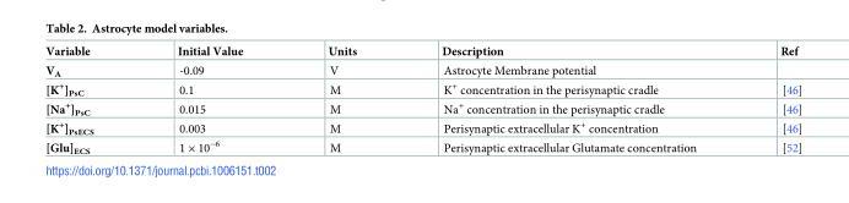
<table><thead><tr><td>Variable</td><td>Initial Value</td><td>Units</td><td>Description</td><td>Ref</td></tr></thead><tbody><tr><td>V<sub>A</sub></td><td>-0.09</td><td>V</td><td>Astrocyte Membrane potential</td><td></td></tr><tr><td>[K<sup>+</sup>]<sub>PsC</sub></td><td>0.1</td><td>M</td><td>K<sup>+</sup> concentration in the perisynaptic cradle</td><td>[46]</td></tr><tr><td>[Na<sup>+</sup>]<sub>PsC</sub></td><td>0.015</td><td>M</td><td>Na<sup>+</sup> concentration in the perisynaptic cradle</td><td>[46]</td></tr><tr><td>[K<sup>+</sup>]<sub>PsECS</sub></td><td>0.003</td><td>M</td><td>Perisynaptic extracellular K<sup>+</sup> concentration</td><td>[46]</td></tr><tr><td>[Glu]<sub>ECS</sub></td><td>1 × 10<sup>−6</sup></td><td>M</td><td>Perisynaptic extracellular Glutamate concentration</td><td>[52]</td></tr></tbody></table>